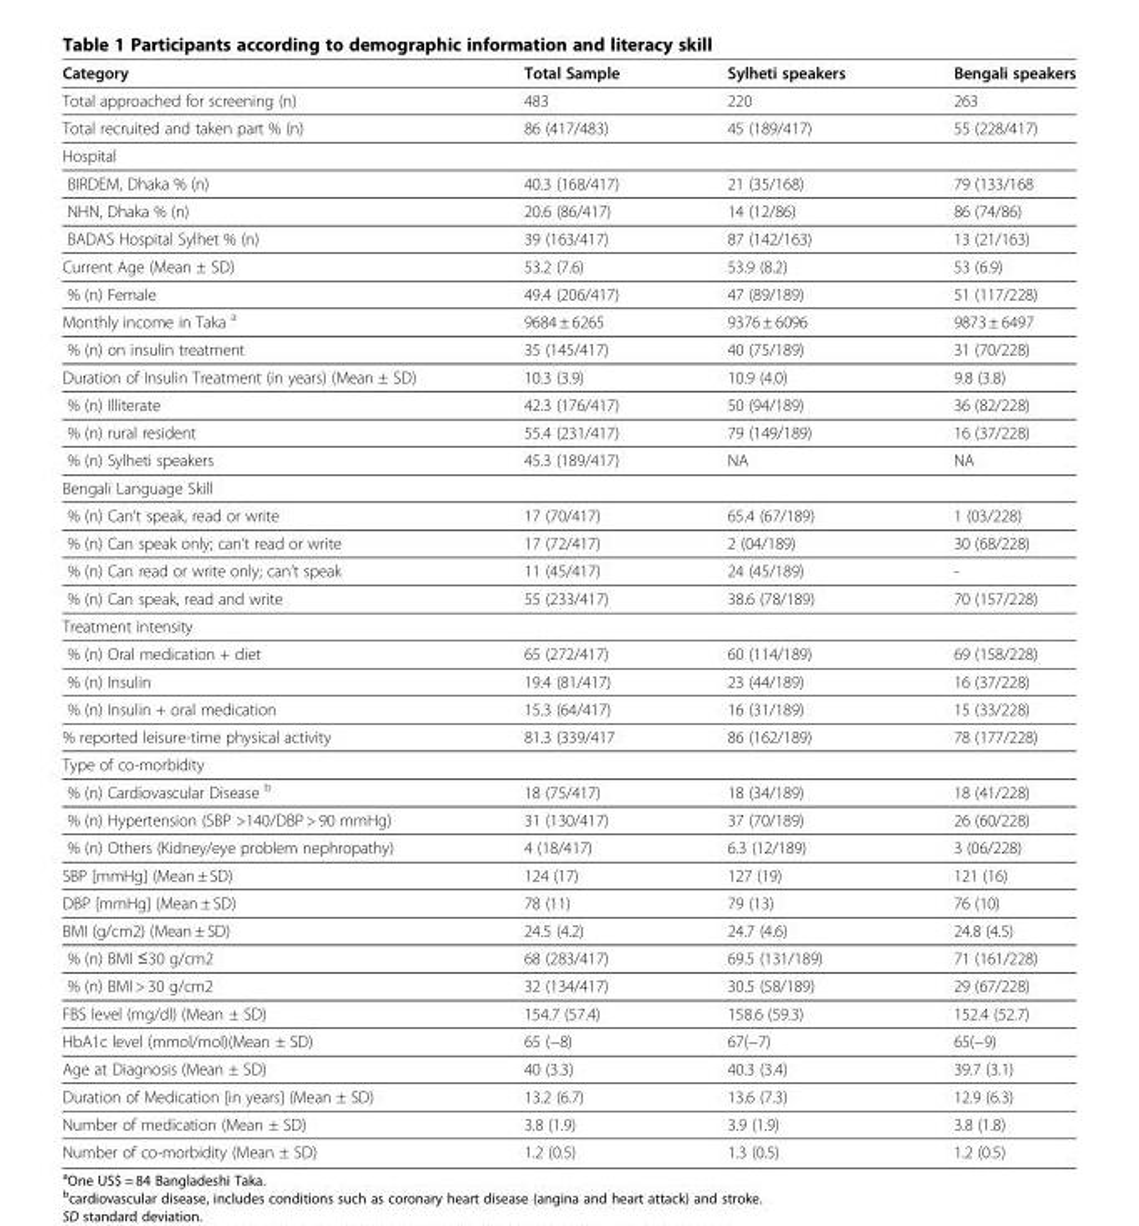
<table><thead><tr><td>Category</td><td>Total Sample</td><td>Sylheti speakers</td><td>Bengali speakers</td></tr></thead><tbody><tr><td>Total approached for screening (n)</td><td>483</td><td>220</td><td>263</td></tr><tr><td>Total recruited and taken part % (n)</td><td>86 (417/483)</td><td>45 (189/417)</td><td>55 (228/417)</td></tr><tr><td colspan="4">Hospital</td></tr><tr><td>BIRDEM, Dhaka % (n)</td><td>40.3 (168/417)</td><td>21 (35/168)</td><td>79 (133/168</td></tr><tr><td>NHN, Dhaka % (n)</td><td>20.6 (86/417)</td><td>14 (12/86)</td><td>86 (74/86)</td></tr><tr><td>BADAS Hospital Sylhet % (n)</td><td>39 (163/417)</td><td>87 (142/163)</td><td>13 (21/163)</td></tr><tr><td>Current Age (Mean ± SD)</td><td>53.2 (7.6)</td><td>53.9 (8.2)</td><td>53 (6.9)</td></tr><tr><td>% (n) Female</td><td>49.4 (206/417)</td><td>47 (89/189)</td><td>51 (117/228)</td></tr><tr><td>Monthly income in Taka <sup>a</sup></td><td>9684 ± 6265</td><td>9376 ± 6096</td><td>9873 ± 6497</td></tr><tr><td>% (n) on insulin treatment</td><td>35 (145/417)</td><td>40 (75/189)</td><td>31 (70/228)</td></tr><tr><td>Duration of Insulin Treatment (in years) (Mean ± SD)</td><td>10.3 (3.9)</td><td>10.9 (4.0)</td><td>9.8 (3.8)</td></tr><tr><td>% (n) Illiterate</td><td>42.3 (176/417)</td><td>50 (94/189)</td><td>36 (82/228)</td></tr><tr><td>% (n) rural resident</td><td>55.4 (231/417)</td><td>79 (149/189)</td><td>16 (37/228)</td></tr><tr><td>% (n) Sylheti speakers</td><td>45.3 (189/417)</td><td>NA</td><td>NA</td></tr><tr><td colspan="4">Bengali Language Skill</td></tr><tr><td>% (n) Can’t speak, read or write</td><td>17 (70/417)</td><td>65.4 (67/189)</td><td>1 (03/228)</td></tr><tr><td>% (n) Can speak only; can’t read or write</td><td>17 (72/417)</td><td>2 (04/189)</td><td>30 (68/228)</td></tr><tr><td>% (n) Can read or write only; can’t speak</td><td>11 (45/417)</td><td>24 (45/189)</td><td>-</td></tr><tr><td>% (n) Can speak, read and write</td><td>55 (233/417)</td><td>38.6 (78/189)</td><td>70 (157/228)</td></tr><tr><td colspan="4">Treatment intensity</td></tr><tr><td>% (n) Oral medication + diet</td><td>65 (272/417)</td><td>60 (114/189)</td><td>69 (158/228)</td></tr><tr><td>% (n) Insulin</td><td>19.4 (81/417)</td><td>23 (44/189)</td><td>16 (37/228)</td></tr><tr><td>% (n) Insulin + oral medication</td><td>15.3 (64/417)</td><td>16 (31/189)</td><td>15 (33/228)</td></tr><tr><td>% reported leisure-time physical activity</td><td>81.3 (339/417</td><td>86 (162/189)</td><td>78 (177/228)</td></tr><tr><td colspan="4">Type of co-morbidity</td></tr><tr><td>% (n) Cardiovascular Disease <sup>b</sup></td><td>18 (75/417)</td><td>18 (34/189)</td><td>18 (41/228)</td></tr><tr><td>% (n) Hypertension (SBP &gt;140/DBP &gt; 90 mmHg)</td><td>31 (130/417)</td><td>37 (70/189)</td><td>26 (60/228)</td></tr><tr><td>% (n) Others (Kidney/eye problem nephropathy)</td><td>4 (18/417)</td><td>6.3 (12/189)</td><td>3 (06/228)</td></tr><tr><td>SBP [mmHg] (Mean ± SD)</td><td>124 (17)</td><td>127 (19)</td><td>121 (16)</td></tr><tr><td>DBP [mmHg] (Mean ± SD)</td><td>78 (11)</td><td>79 (13)</td><td>76 (10)</td></tr><tr><td>BMI (g/cm2) (Mean ± SD)</td><td>24.5 (4.2)</td><td>24.7 (4.6)</td><td>24.8 (4.5)</td></tr><tr><td>% (n) BMI ≤30 g/cm2</td><td>68 (283/417)</td><td>69.5 (131/189)</td><td>71 (161/228)</td></tr><tr><td>% (n) BMI &gt; 30 g/cm2</td><td>32 (134/417)</td><td>30.5 (58/189)</td><td>29 (67/228)</td></tr><tr><td>FBS level (mg/dl) (Mean ± SD)</td><td>154.7 (57.4)</td><td>158.6 (59.3)</td><td>152.4 (52.7)</td></tr><tr><td>HbA1c level (mmol/mol)(Mean ± SD)</td><td>65 (−8)</td><td>67(−7)</td><td>65(−9)</td></tr><tr><td>Age at Diagnosis (Mean ± SD)</td><td>40 (3.3)</td><td>40.3 (3.4)</td><td>39.7 (3.1)</td></tr><tr><td>Duration of Medication [in years] (Mean ± SD)</td><td>13.2 (6.7)</td><td>13.6 (7.3)</td><td>12.9 (6.3)</td></tr><tr><td>Number of medication (Mean ± SD)</td><td>3.8 (1.9)</td><td>3.9 (1.9)</td><td>3.8 (1.8)</td></tr><tr><td>Number of co-morbidity (Mean ± SD)</td><td>1.2 (0.5)</td><td>1.3 (0.5)</td><td>1.2 (0.5)</td></tr></tbody></table>